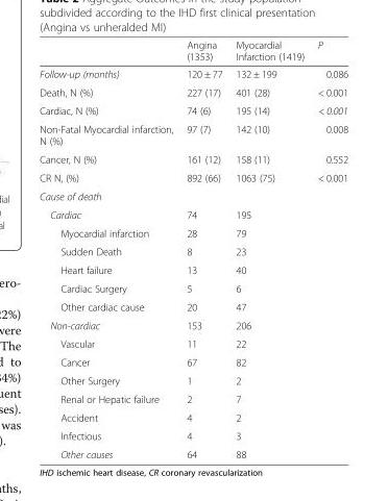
<table><thead><tr><td></td><td>Angina (1353)</td><td>Myocardial Infarction (1419)</td><td>P</td></tr></thead><tbody><tr><td>Follow-up (months)</td><td>120 ± 77</td><td>132 ± 199</td><td>0.086</td></tr><tr><td>Death, N (%)</td><td>227 (17)</td><td>401 (28)</td><td>&lt; 0.001</td></tr><tr><td>Cardiac, N (%)</td><td>74 (6)</td><td>195 (14)</td><td>&lt; 0.001</td></tr><tr><td>Non-Fatal Myocardial infarction, N (%)</td><td>97 (7)</td><td>142 (10)</td><td>0.008</td></tr><tr><td>Cancer, N (%)</td><td>161 (12)</td><td>158 (11)</td><td>0.552</td></tr><tr><td>CR N, (%)</td><td>892 (66)</td><td>1063 (75)</td><td>&lt; 0.001</td></tr><tr><td colspan="4">Cause of death</td></tr><tr><td>Cardiac</td><td>74</td><td>195</td><td></td></tr><tr><td>Myocardial infarction</td><td>28</td><td>79</td><td></td></tr><tr><td>Sudden Death</td><td>8</td><td>23</td><td></td></tr><tr><td>Heart failure</td><td>13</td><td>40</td><td></td></tr><tr><td>Cardiac Surgery</td><td>5</td><td>6</td><td></td></tr><tr><td>Other cardiac cause</td><td>20</td><td>47</td><td></td></tr><tr><td>Non-cardiac</td><td>153</td><td>206</td><td></td></tr><tr><td>Vascular</td><td>11</td><td>22</td><td></td></tr><tr><td>Cancer</td><td>67</td><td>82</td><td></td></tr><tr><td>Other Surgery</td><td>1</td><td>2</td><td></td></tr><tr><td>Renal or Hepatic failure</td><td>2</td><td>7</td><td></td></tr><tr><td>Accident</td><td>4</td><td>2</td><td></td></tr><tr><td>Infectious</td><td>4</td><td>3</td><td></td></tr><tr><td>Other causes</td><td>64</td><td>88</td><td></td></tr></tbody></table>